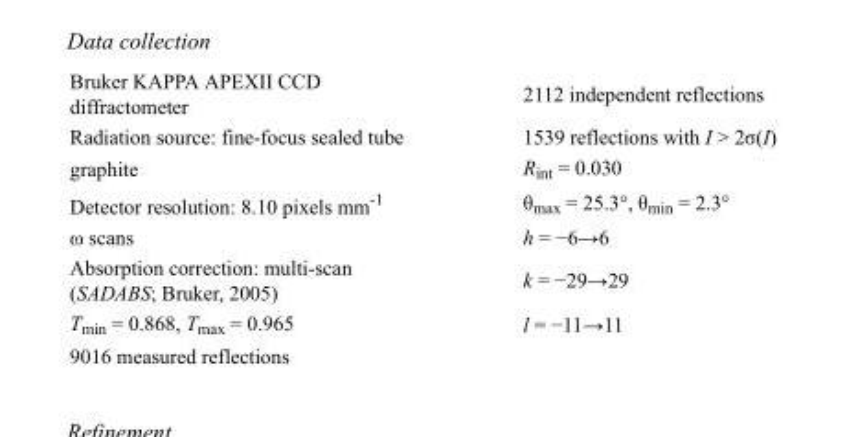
<table><tbody><tr><td>Bruker KAPPA APEXII CCD diffractometer</td><td>2112 independent reflections</td></tr><tr><td>Radiation source: fine-focus sealed tube</td><td>1539 reflections with I &gt; 2σ(I)</td></tr><tr><td>graphite</td><td>R<sub>int</sub> = 0.030</td></tr><tr><td>Detector resolution: 8.10 pixels mm<sup>-1</sup></td><td>θ<sub>max</sub> = 25.3°, θ<sub>min</sub> = 2.3°</td></tr><tr><td>ω scans</td><td>h = −6→6</td></tr><tr><td>Absorption correction: multi-scan (SADABS; Bruker, 2005)</td><td>k = −29→29</td></tr><tr><td>T<sub>min</sub> = 0.868, T<sub>max</sub> = 0.965</td><td>l = −11→11</td></tr><tr><td>9016 measured reflections</td><td></td></tr></tbody></table>